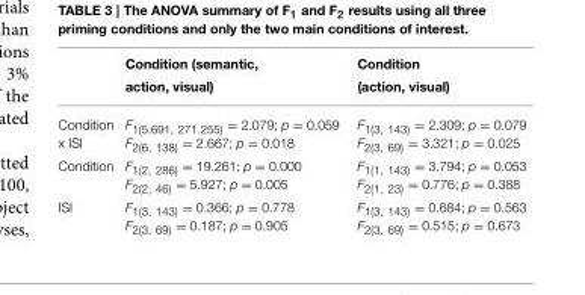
<table><thead><tr><td></td><td>Condition (semantic, action, visual)</td><td>Condition (action, visual)</td></tr></thead><tbody><tr><td>Condition x ISI</td><td>F<sub>1(5.691, 271.255)</sub> = 2.079; p = 0.059 F<sub>2(6, 138)</sub> = 2.667; p = 0.018</td><td>F<sub>1(3, 143)</sub> = 2.309; p = 0.079 F<sub>2(3, 69)</sub> = 3.321; p = 0.025</td></tr><tr><td>Condition</td><td>F<sub>1(2, 286)</sub> = 19.261; p = 0.000 F<sub>2(2, 46)</sub> = 5.927; p = 0.005</td><td>F<sub>1(1, 143)</sub> = 3.794; p = 0.053 F<sub>2(1, 23)</sub> = 0.776; p = 0.388</td></tr><tr><td>ISI</td><td>F<sub>1(3, 143)</sub> = 0.366; p = 0.778 F<sub>2(3, 69)</sub> = 0.187; p = 0.905</td><td>F<sub>1(3, 143)</sub> = 0.684; p = 0.563 F<sub>2(3, 69)</sub> = 0.515; p = 0.673</td></tr></tbody></table>